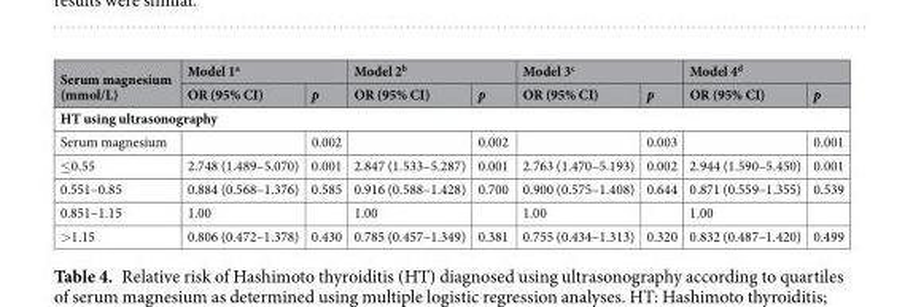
<table><thead><tr><td rowspan="2">Serum magnesium (mmol/L)</td><td colspan="2">Model 1<sup>a</sup></td><td colspan="2">Model 2<sup>b</sup></td><td colspan="2">Model 3<sup>c</sup></td><td colspan="2">Model 4<sup>d</sup></td></tr><tr><td>OR (95% CI)</td><td>p</td><td>OR (95% CI)</td><td>p</td><td>OR (95% CI)</td><td>p</td><td>OR (95% CI)</td><td>p</td></tr></thead><tbody><tr><td colspan="9">HT using ultrasonography</td></tr><tr><td>Serum magnesium</td><td></td><td>0.002</td><td></td><td>0.002</td><td></td><td>0.003</td><td></td><td>0.001</td></tr><tr><td>≤0.55</td><td>2.748 (1.489–5.070)</td><td>0.001</td><td>2.847 (1.533–5.287)</td><td>0.001</td><td>2.763 (1.470–5.193)</td><td>0.002</td><td>2.944 (1.590–5.450)</td><td>0.001</td></tr><tr><td>0.551–0.85</td><td>0.884 (0.568–1.376)</td><td>0.585</td><td>0.916 (0.588–1.428)</td><td>0.700</td><td>0.900 (0.575–1.408)</td><td>0.644</td><td>0.871 (0.559–1.355)</td><td>0.539</td></tr><tr><td>0.851–1.15</td><td>1.00</td><td></td><td>1.00</td><td></td><td>1.00</td><td></td><td>1.00</td><td></td></tr><tr><td>&gt;1.15</td><td>0.806 (0.472–1.378)</td><td>0.430</td><td>0.785 (0.457–1.349)</td><td>0.381</td><td>0.755 (0.434–1.313)</td><td>0.320</td><td>0.832 (0.487–1.420)</td><td>0.499</td></tr></tbody></table>